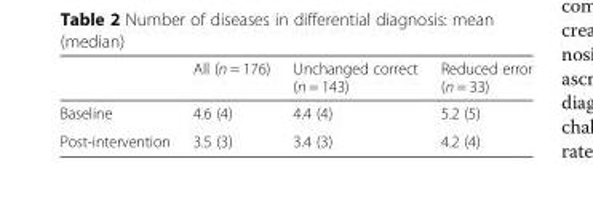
<table><thead><tr><td></td><td>All (n = 176)</td><td>Unchanged correct (n = 143)</td><td>Reduced error (n = 33)</td></tr></thead><tbody><tr><td>Baseline</td><td>4.6 (4)</td><td>4.4 (4)</td><td>5.2 (5)</td></tr><tr><td>Post-intervention</td><td>3.5 (3)</td><td>3.4 (3)</td><td>4.2 (4)</td></tr></tbody></table>